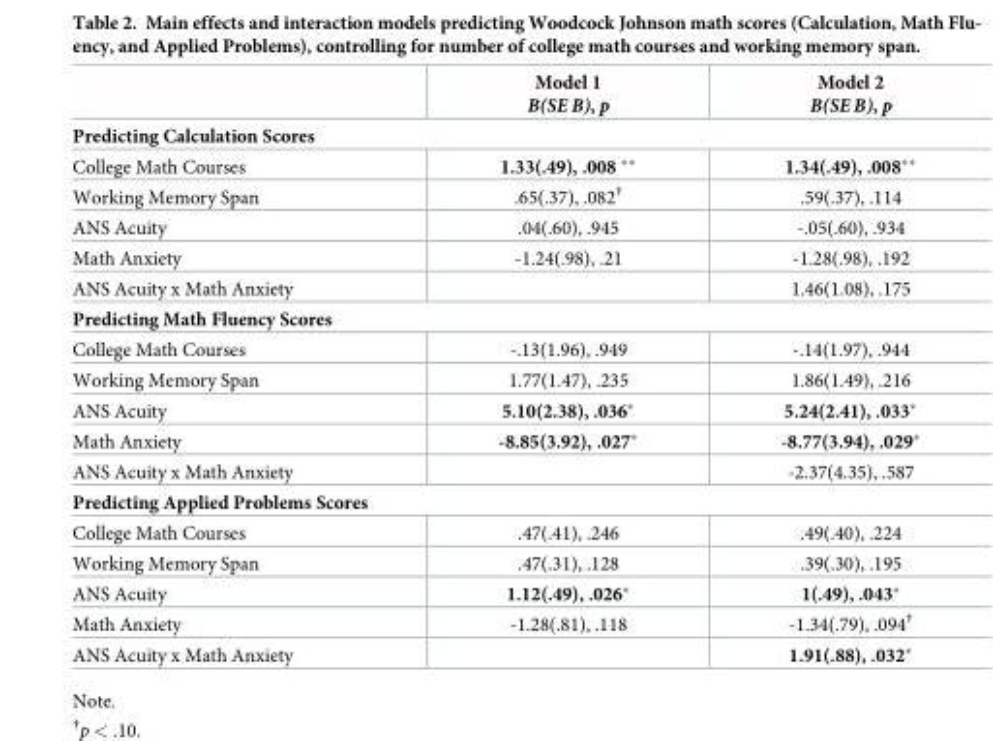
<table><thead><tr><td></td><td>Model 1 B(SE B), p</td><td>Model 2 B(SE B), p</td></tr></thead><tbody><tr><td colspan="3">Predicting Calculation Scores</td></tr><tr><td>College Math Courses</td><td>1.33(.49), .008 **</td><td>1.34(.49), .008**</td></tr><tr><td>Working Memory Span</td><td>.65(.37), .082<sup>†</sup></td><td>.59(.37), .114</td></tr><tr><td>ANS Acuity</td><td>.04(.60), .945</td><td>-.05(.60), .934</td></tr><tr><td>Math Anxiety</td><td>-1.24(.98), .21</td><td>-1.28(.98), .192</td></tr><tr><td>ANS Acuity x Math Anxiety</td><td></td><td>1.46(1.08), .175</td></tr><tr><td colspan="3">Predicting Math Fluency Scores</td></tr><tr><td>College Math Courses</td><td>-.13(1.96), .949</td><td>-.14(1.97), .944</td></tr><tr><td>Working Memory Span</td><td>1.77(1.47), .235</td><td>1.86(1.49), .216</td></tr><tr><td>ANS Acuity</td><td>5.10(2.38), .036*</td><td>5.24(2.41), .033*</td></tr><tr><td>Math Anxiety</td><td>-8.85(3.92), .027*</td><td>-8.77(3.94), .029*</td></tr><tr><td>ANS Acuity x Math Anxiety</td><td></td><td>-2.37(4.35), .587</td></tr><tr><td colspan="3">Predicting Applied Problems Scores</td></tr><tr><td>College Math Courses</td><td>.47(.41), .246</td><td>.49(.40), .224</td></tr><tr><td>Working Memory Span</td><td>.47(.31), .128</td><td>.39(.30), .195</td></tr><tr><td>ANS Acuity</td><td>1.12(.49), .026*</td><td>1(.49), .043*</td></tr><tr><td>Math Anxiety</td><td>-1.28(.81), .118</td><td>-1.34(.79), .094<sup>†</sup></td></tr><tr><td>ANS Acuity x Math Anxiety</td><td></td><td>1.91(.88), .032*</td></tr></tbody></table>